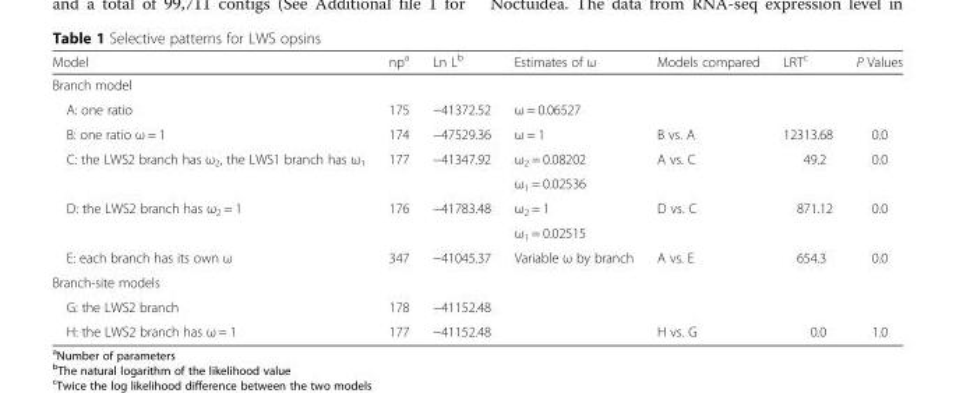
<table><thead><tr><td>Model</td><td>np<sup>a</sup></td><td>Ln L<sup>b</sup></td><td>Estimates of ω</td><td>Models compared</td><td>LRT<sup>c</sup></td><td>P Values</td></tr></thead><tbody><tr><td colspan="7">Branch model</td></tr><tr><td>A: one ratio</td><td>175</td><td>−41372.52</td><td>ω = 0.06527</td><td></td><td></td><td></td></tr><tr><td>B: one ratio ω = 1</td><td>174</td><td>−47529.36</td><td>ω = 1</td><td>B vs. A</td><td>12313.68</td><td>0.0</td></tr><tr><td rowspan="2">C: the LWS2 branch has ω<sub>2</sub>, the LWS1 branch has ω<sub>1</sub></td><td rowspan="2">177</td><td rowspan="2">−41347.92</td><td>ω<sub>2</sub> = 0.08202</td><td rowspan="2">A vs. C</td><td rowspan="2">49.2</td><td rowspan="2">0.0</td></tr><tr><td>ω<sub>1</sub> = 0.02536</td></tr><tr><td rowspan="2">D: the LWS2 branch has ω<sub>2</sub> = 1</td><td rowspan="2">176</td><td rowspan="2">−41783.48</td><td>ω<sub>2</sub> = 1</td><td rowspan="2">D vs. C</td><td rowspan="2">871.12</td><td rowspan="2">0.0</td></tr><tr><td>ω<sub>1</sub> = 0.02515</td></tr><tr><td>E: each branch has its own ω</td><td>347</td><td>−41045.37</td><td>Variable ω by branch</td><td>A vs. E</td><td>654.3</td><td>0.0</td></tr><tr><td colspan="7">Branch-site models</td></tr><tr><td>G: the LWS2 branch</td><td>178</td><td>−41152.48</td><td></td><td></td><td></td><td></td></tr><tr><td>H: the LWS2 branch has ω = 1</td><td>177</td><td>−41152.48</td><td></td><td>H vs. G</td><td>0.0</td><td>1.0</td></tr></tbody></table>